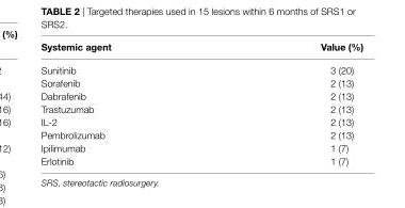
<table><thead><tr><td>systemic agent</td><td>Value (%)</td></tr></thead><tbody><tr><td>Sunitinib</td><td>3 (20)</td></tr><tr><td>Sorafenib</td><td>2 (13)</td></tr><tr><td>Dabrafenib</td><td>2 (13)</td></tr><tr><td>Trastuzumab</td><td>2 (13)</td></tr><tr><td>IL-2</td><td>2 (13)</td></tr><tr><td>Pembrolizumab</td><td>2 (13)</td></tr><tr><td>Ipilimumab</td><td>1 (7)</td></tr><tr><td>Erlotinib</td><td>1 (7)</td></tr></tbody></table>